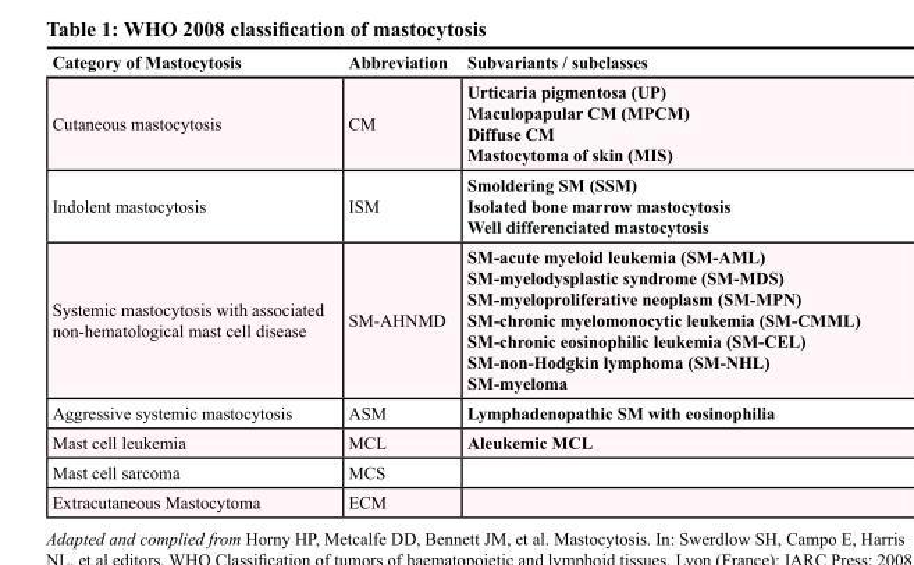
<table><thead><tr><td>Category of Mastocytosis</td><td>Abbreviation</td><td>Subvariants / subclasses</td></tr></thead><tbody><tr><td>Cutaneous mastocytosis</td><td>CM</td><td>Urticaria pigmentosa (UP) Maculopapular CM (MPCM) Diffuse CM Mastocytoma of skin (MIS)</td></tr><tr><td>Indolent mastocytosis</td><td>ISM</td><td>Smoldering SM (SSM) Isolated bone marrow mastocytosis Well differenciated mastocytosis</td></tr><tr><td>Systemic mastocytosis with associated non-hematological mast cell disease</td><td>SM-AHNMD</td><td>SM-acute myeloid leukemia (SM-AML) SM-myelodysplastic syndrome (SM-MDS) SM-myeloproliferative neoplasm (SM-MPN) SM-chronic myelomonocytic leukemia (SM-CMML) SM-chronic eosinophilic leukemia (SM-CEL) SM-non-Hodgkin lymphoma (SM-NHL) SM-myeloma</td></tr><tr><td>Aggressive systemic mastocytosis</td><td>ASM</td><td>Lymphadenopathic SM with eosinophilia</td></tr><tr><td>Mast cell leukemia</td><td>MCL</td><td>Aleukemic MCL</td></tr><tr><td>Mast cell sarcoma</td><td>MCS</td><td></td></tr><tr><td>Extracutaneous Mastocytoma</td><td>ECM</td><td></td></tr></tbody></table>